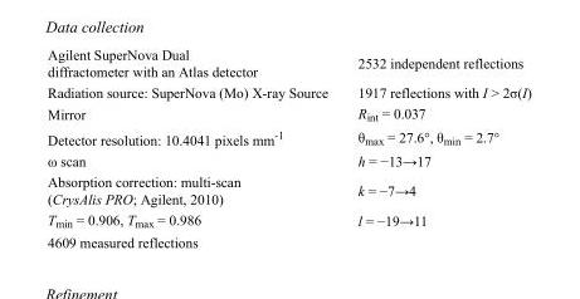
<table><tbody><tr><td>Agilent SuperNova Dual diffractometer with an Atlas detector</td><td>2532 independent reflections</td></tr><tr><td>Radiation source: SuperNova (Mo) X-ray Source</td><td>1917 reflections with I &gt; 2σ(I)</td></tr><tr><td>Mirror</td><td>R<sub>int</sub> = 0.037</td></tr><tr><td>Detector resolution: 10.4041 pixels mm<sup>-1</sup></td><td>θ<sub>max</sub> = 27.6°, θ<sub>min</sub> = 2.7°</td></tr><tr><td>ω scan</td><td>h = −13→17</td></tr><tr><td>Absorption correction: multi-scan (CrysAlis PRO; Agilent, 2010)</td><td>k = −7→4</td></tr><tr><td>T<sub>min</sub> = 0.906, T<sub>max</sub> = 0.986</td><td>l = −19→11</td></tr><tr><td>4609 measured reflections</td><td></td></tr></tbody></table>